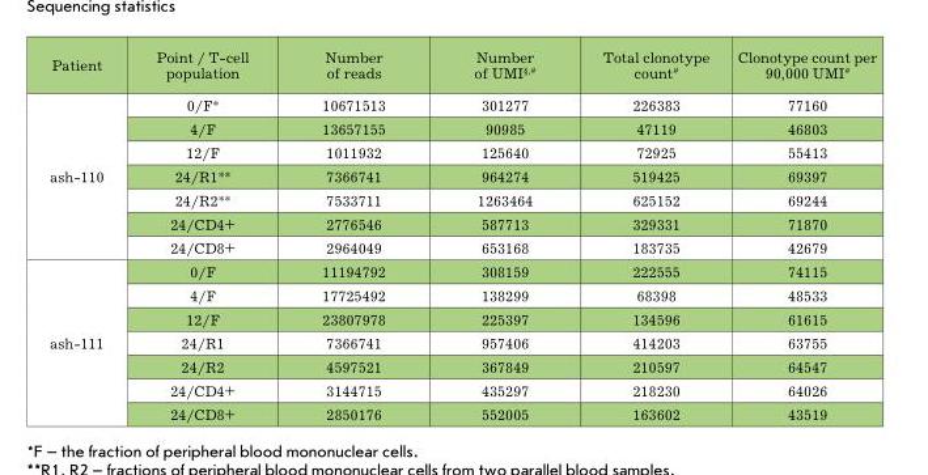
<table><thead><tr><td>Patient</td><td>Point / T-cell population</td><td>Number of reads</td><td>Number of UMI<sup>§,#</sup></td><td>Total clonotype count<sup>#</sup></td><td>Clonotype count per 90,000 UMI<sup>#</sup></td></tr></thead><tbody><tr><td rowspan="7">ash-110</td><td>0/F*</td><td>10671513</td><td>301277</td><td>226383</td><td>77160</td></tr><tr><td>4/F</td><td>13657155</td><td>90985</td><td>47119</td><td>46803</td></tr><tr><td>12/F</td><td>1011932</td><td>125640</td><td>72925</td><td>55413</td></tr><tr><td>24/R1**</td><td>7366741</td><td>964274</td><td>519425</td><td>69397</td></tr><tr><td>24/R2**</td><td>7533711</td><td>1263464</td><td>625152</td><td>69244</td></tr><tr><td>24/CD4+</td><td>2776546</td><td>587713</td><td>329331</td><td>71870</td></tr><tr><td>24/CD8+</td><td>2964049</td><td>653168</td><td>183735</td><td>42679</td></tr><tr><td rowspan="7">ash-111</td><td>0/F</td><td>11194792</td><td>308159</td><td>222555</td><td>74115</td></tr><tr><td>4/F</td><td>17725492</td><td>138299</td><td>68398</td><td>48533</td></tr><tr><td>12/F</td><td>23807978</td><td>225397</td><td>134596</td><td>61615</td></tr><tr><td>24/R1</td><td>7366741</td><td>957406</td><td>414203</td><td>63755</td></tr><tr><td>24/R2</td><td>4597521</td><td>367849</td><td>210597</td><td>64547</td></tr><tr><td>24/CD4+</td><td>3144715</td><td>435297</td><td>218230</td><td>64026</td></tr><tr><td>24/CD8+</td><td>2850176</td><td>552005</td><td>163602</td><td>43519</td></tr></tbody></table>